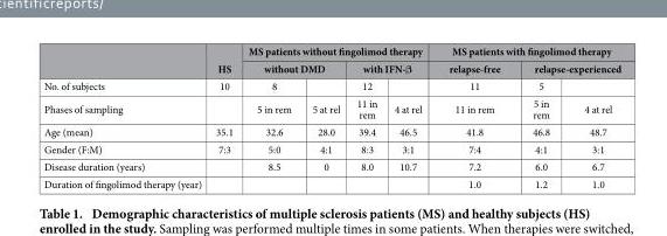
<table><thead><tr><td rowspan="3">No. of subjects</td><td rowspan="3">HS 10</td><td colspan="4">MS patients without fingolimod therapy</td><td colspan="3">MS patients with fingolimod therapy</td></tr><tr><td colspan="2">without DMD</td><td colspan="2">with IFN-β</td><td rowspan="2">relapse-free 11</td><td colspan="2">relapse-experienced</td></tr><tr><td>8</td><td></td><td>12</td><td></td><td>5</td><td></td></tr></thead><tbody><tr><td>Phases of sampling</td><td></td><td>5 in rem</td><td>5 at rel</td><td>11 in rem</td><td>4 at rel</td><td>11 in rem</td><td>5 in rem</td><td>4 at rel</td></tr><tr><td>Age (mean)</td><td>35.1</td><td>32.6</td><td>28.0</td><td>39.4</td><td>46.5</td><td>41.8</td><td>46.8</td><td>48.7</td></tr><tr><td>Gender (F:M)</td><td>7:3</td><td>5:0</td><td>4:1</td><td>8:3</td><td>3:1</td><td>7:4</td><td>4:1</td><td>3:1</td></tr><tr><td>Disease duration (years)</td><td></td><td>8.5</td><td>0</td><td>8.0</td><td>10.7</td><td>7.2</td><td>6.0</td><td>6.7</td></tr><tr><td>Duration of fingolimod therapy (year)</td><td></td><td></td><td></td><td></td><td></td><td>1.0</td><td>1.2</td><td>1.0</td></tr></tbody></table>